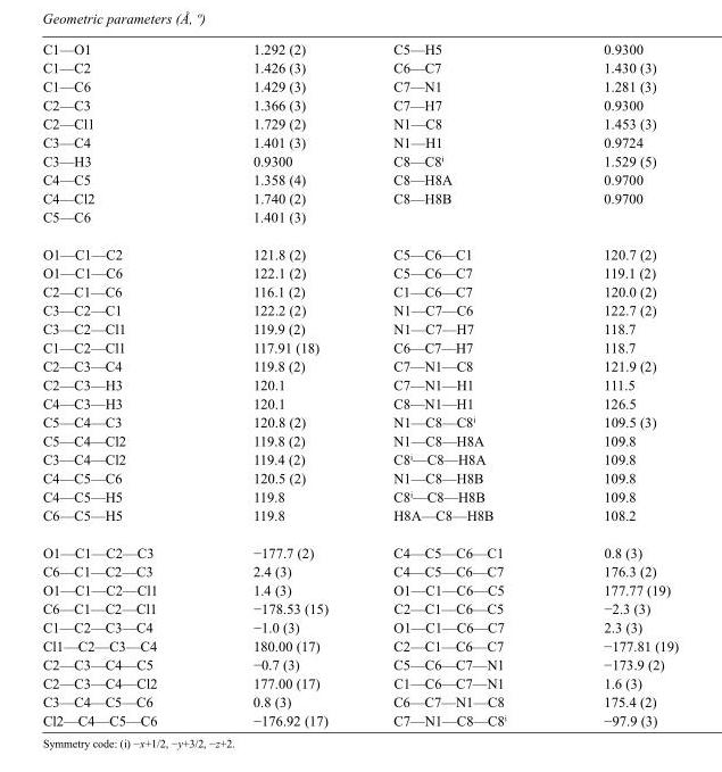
<table><tbody><tr><td>C1—O1</td><td>1.292 (2)</td><td>C5—H5</td><td>0.9300</td></tr><tr><td>C1—C2</td><td>1.426 (3)</td><td>C6—C7</td><td>1.430 (3)</td></tr><tr><td>C1—C6</td><td>1.429 (3)</td><td>C7—N1</td><td>1.281 (3)</td></tr><tr><td>C2—C3</td><td>1.366 (3)</td><td>C7—H7</td><td>0.9300</td></tr><tr><td>C2—Cl1</td><td>1.729 (2)</td><td>N1—C8</td><td>1.453 (3)</td></tr><tr><td>C3—C4</td><td>1.401 (3)</td><td>N1—H1</td><td>0.9724</td></tr><tr><td>C3—H3</td><td>0.9300</td><td>C8—C8<sup>i</sup></td><td>1.529 (5)</td></tr><tr><td>C4—C5</td><td>1.358 (4)</td><td>C8—H8A</td><td>0.9700</td></tr><tr><td>C4—Cl2</td><td>1.740 (2)</td><td>C8—H8B</td><td>0.9700</td></tr><tr><td>C5—C6</td><td>1.401 (3)</td><td></td><td></td></tr><tr><td>O1—C1—C2</td><td>121.8 (2)</td><td>C5—C6—C1</td><td>120.7 (2)</td></tr><tr><td>O1—C1—C6</td><td>122.1 (2)</td><td>C5—C6—C7</td><td>119.1 (2)</td></tr><tr><td>C2—C1—C6</td><td>116.1 (2)</td><td>C1—C6—C7</td><td>120.0 (2)</td></tr><tr><td>C3—C2—C1</td><td>122.2 (2)</td><td>N1—C7—C6</td><td>122.7 (2)</td></tr><tr><td>C3—C2—Cl1</td><td>119.9 (2)</td><td>N1—C7—H7</td><td>118.7</td></tr><tr><td>C1—C2—Cl1</td><td>117.91 (18)</td><td>C6—C7—H7</td><td>118.7</td></tr><tr><td>C2—C3—C4</td><td>119.8 (2)</td><td>C7—N1—C8</td><td>121.9 (2)</td></tr><tr><td>C2—C3—H3</td><td>120.1</td><td>C7—N1—H1</td><td>111.5</td></tr><tr><td>C4—C3—H3</td><td>120.1</td><td>C8—N1—H1</td><td>126.5</td></tr><tr><td>C5—C4—C3</td><td>120.8 (2)</td><td>N1—C8—C8<sup>i</sup></td><td>109.5 (3)</td></tr><tr><td>C5—C4—Cl2</td><td>119.8 (2)</td><td>N1—C8—H8A</td><td>109.8</td></tr><tr><td>C3—C4—Cl2</td><td>119.4 (2)</td><td>C8<sup>i</sup>—C8—H8A</td><td>109.8</td></tr><tr><td>C4—C5—C6</td><td>120.5 (2)</td><td>N1—C8—H8B</td><td>109.8</td></tr><tr><td>C4—C5—H5</td><td>119.8</td><td>C8<sup>i</sup>—C8—H8B</td><td>109.8</td></tr><tr><td>C6—C5—H5</td><td>119.8</td><td>H8A—C8—H8B</td><td>108.2</td></tr><tr><td>O1—C1—C2—C3</td><td>−177.7 (2)</td><td>C4—C5—C6—C1</td><td>0.8 (3)</td></tr><tr><td>C6—C1—C2—C3</td><td>2.4 (3)</td><td>C4—C5—C6—C7</td><td>176.3 (2)</td></tr><tr><td>O1—C1—C2—Cl1</td><td>1.4 (3)</td><td>O1—C1—C6—C5</td><td>177.77 (19)</td></tr><tr><td>C6—C1—C2—Cl1</td><td>−178.53 (15)</td><td>C2—C1—C6—C5</td><td>−2.3 (3)</td></tr><tr><td>C1—C2—C3—C4</td><td>−1.0 (3)</td><td>O1—C1—C6—C7</td><td>2.3 (3)</td></tr><tr><td>Cl1—C2—C3—C4</td><td>180.00 (17)</td><td>C2—C1—C6—C7</td><td>−177.81 (19)</td></tr><tr><td>C2—C3—C4—C5</td><td>−0.7 (3)</td><td>C5—C6—C7—N1</td><td>−173.9 (2)</td></tr><tr><td>C2—C3—C4—Cl2</td><td>177.00 (17)</td><td>C1—C6—C7—N1</td><td>1.6 (3)</td></tr><tr><td>C3—C4—C5—C6</td><td>0.8 (3)</td><td>C6—C7—N1—C8</td><td>175.4 (2)</td></tr><tr><td>Cl2—C4—C5—C6</td><td>−176.92 (17)</td><td>C7—N1—C8—C8<sup>i</sup></td><td>−97.9 (3)</td></tr></tbody></table>